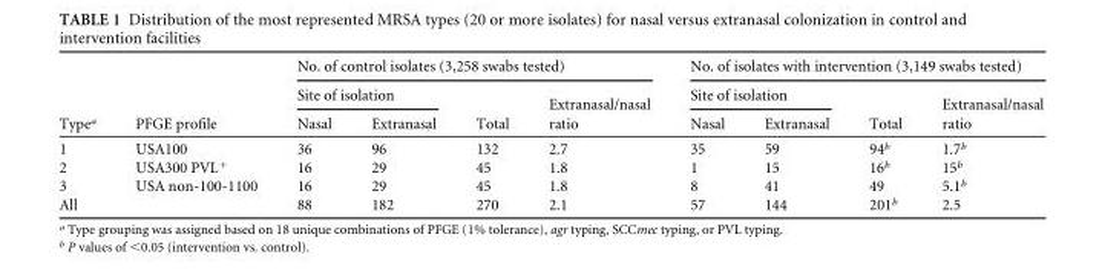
<table><thead><tr><td rowspan="3">Type<sup>a</sup></td><td rowspan="3">PFGE profile</td><td colspan="4">No. of control isolates (3,258 swabs tested)</td><td colspan="4">No. of isolates with intervention (3,149 swabs tested)</td></tr><tr><td colspan="2">Site of isolation</td><td rowspan="2">Total</td><td rowspan="2">Extranasal/nasal ratio</td><td colspan="2">Site of isolation</td><td rowspan="2">Total</td><td rowspan="2">Extranasal/nasal ratio</td></tr><tr><td>Nasal</td><td>Extranasal</td><td>Nasal</td><td>Extranasal</td></tr></thead><tbody><tr><td>1</td><td>USA100</td><td>36</td><td>96</td><td>132</td><td>2.7</td><td>35</td><td>59</td><td>94<sup>b</sup></td><td>1.7<sup>b</sup></td></tr><tr><td>2</td><td>USA300 PVL<sup>+</sup></td><td>16</td><td>29</td><td>45</td><td>1.8</td><td>1</td><td>15</td><td>16<sup>b</sup></td><td>15<sup>b</sup></td></tr><tr><td>3</td><td>USA non-100-1100</td><td>16</td><td>29</td><td>45</td><td>1.8</td><td>8</td><td>41</td><td>49</td><td>5.1<sup>b</sup></td></tr><tr><td>All</td><td></td><td>88</td><td>182</td><td>270</td><td>2.1</td><td>57</td><td>144</td><td>201<sup>b</sup></td><td>2.5</td></tr></tbody></table>